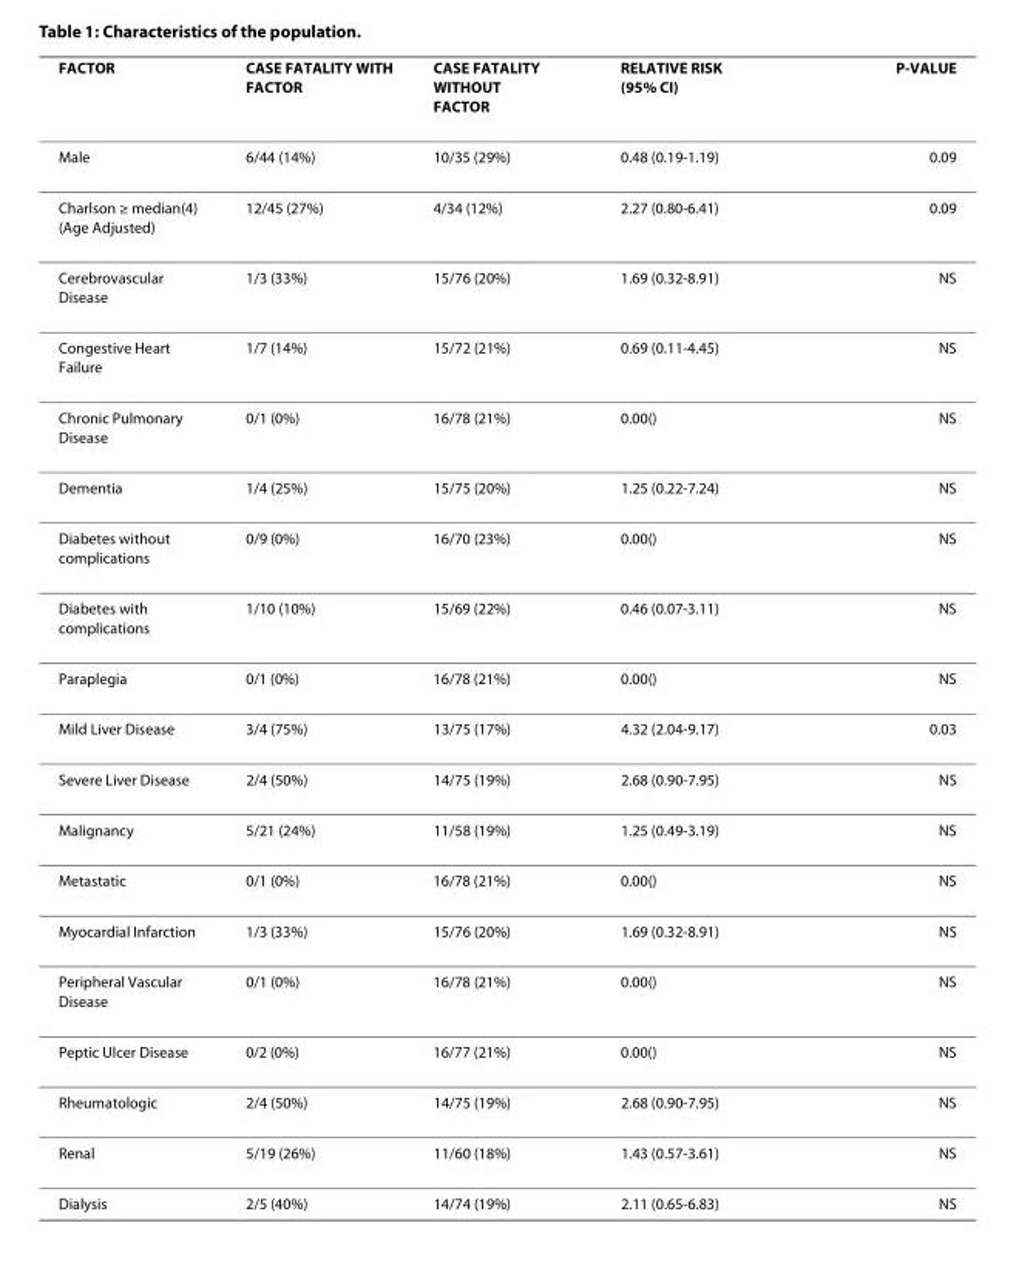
<table><thead><tr><td>FACTOR</td><td>CASE FATALITY WITH FACTOR</td><td>CASE FATALITY WITHOUT FACTOR</td><td>RELATIVE RISK (95% CI)</td><td>P-VALUE</td></tr></thead><tbody><tr><td>Male</td><td>6/44 (14%)</td><td>10/35 (29%)</td><td>0.48 (0.19-1.19)</td><td>0.09</td></tr><tr><td>Charlson ≥ median(4) (Age Adjusted)</td><td>12/45 (27%)</td><td>4/34 (12%)</td><td>2.27 (0.80-6.41)</td><td>0.09</td></tr><tr><td>Cerebrovascular Disease</td><td>1/3 (33%)</td><td>15/76 (20%)</td><td>1.69 (0.32-8.91)</td><td>NS</td></tr><tr><td>Congestive Heart Failure</td><td>1/7 (14%)</td><td>15/72 (21%)</td><td>0.69 (0.11-4.45)</td><td>NS</td></tr><tr><td>Chronic Pulmonary Disease</td><td>0/1 (0%)</td><td>16/78 (21%)</td><td>0.00()</td><td>NS</td></tr><tr><td>Dementia</td><td>1/4 (25%)</td><td>15/75 (20%)</td><td>1.25 (0.22-7.24)</td><td>NS</td></tr><tr><td>Diabetes without complications</td><td>0/9 (0%)</td><td>16/70 (23%)</td><td>0.00()</td><td>NS</td></tr><tr><td>Diabetes with complications</td><td>1/10 (10%)</td><td>15/69 (22%)</td><td>0.46 (0.07-3.11)</td><td>NS</td></tr><tr><td>Paraplegia</td><td>0/1 (0%)</td><td>16/78 (21%)</td><td>0.00()</td><td>NS</td></tr><tr><td>Mild Liver Disease</td><td>3/4 (75%)</td><td>13/75 (17%)</td><td>4.32 (2.04-9.17)</td><td>0.03</td></tr><tr><td>Severe Liver Disease</td><td>2/4 (50%)</td><td>14/75 (19%)</td><td>2.68 (0.90-7.95)</td><td>NS</td></tr><tr><td>Malignancy</td><td>5/21 (24%)</td><td>11/58 (19%)</td><td>1.25 (0.49-3.19)</td><td>NS</td></tr><tr><td>Metastatic</td><td>0/1 (0%)</td><td>16/78 (21%)</td><td>0.00()</td><td>NS</td></tr><tr><td>Myocardial Infarction</td><td>1/3 (33%)</td><td>15/76 (20%)</td><td>1.69 (0.32-8.91)</td><td>NS</td></tr><tr><td>Peripheral Vascular Disease</td><td>0/1 (0%)</td><td>16/78 (21%)</td><td>0.00()</td><td>NS</td></tr><tr><td>Peptic Ulcer Disease</td><td>0/2 (0%)</td><td>16/77 (21%)</td><td>0.00()</td><td>NS</td></tr><tr><td>Rheumatologic</td><td>2/4 (50%)</td><td>14/75 (19%)</td><td>2.68 (0.90-7.95)</td><td>NS</td></tr><tr><td>Renal</td><td>5/19 (26%)</td><td>11/60 (18%)</td><td>1.43 (0.57-3.61)</td><td>NS</td></tr><tr><td>Dialysis</td><td>2/5 (40%)</td><td>14/74 (19%)</td><td>2.11 (0.65-6.83)</td><td>NS</td></tr></tbody></table>